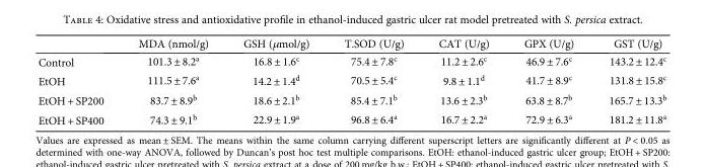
<table><thead><tr><td></td><td>MDA (nmol/g)</td><td>GSH (μmol/g)</td><td>T.SOD (U/g)</td><td>CAT (U/g)</td><td>GPX (U/g)</td><td>GST (U/g)</td></tr></thead><tbody><tr><td>Control</td><td>101.3 ± 8.2<sup>a</sup></td><td>16.8 ± 1.6<sup>c</sup></td><td>75.4 ± 7.8<sup>c</sup></td><td>11.2 ± 2.6<sup>c</sup></td><td>46.9 ± 7.6<sup>c</sup></td><td>143.2 ± 12.4<sup>c</sup></td></tr><tr><td>EtOH</td><td>111.5 ± 7.6<sup>a</sup></td><td>14.2 ± 1.4<sup>d</sup></td><td>70.5 ± 5.4<sup>c</sup></td><td>9.8 ± 1.1<sup>d</sup></td><td>41.7 ± 8.9<sup>c</sup></td><td>131.8 ± 15.8<sup>c</sup></td></tr><tr><td>EtOH + SP200</td><td>83.7 ± 8.9<sup>b</sup></td><td>18.6 ± 2.1<sup>b</sup></td><td>85.4 ± 7.1<sup>b</sup></td><td>13.6 ± 2.3<sup>b</sup></td><td>63.8 ± 8.7<sup>b</sup></td><td>165.7 ± 13.3<sup>b</sup></td></tr><tr><td>EtOH + SP400</td><td>74.3 ± 9.1<sup>b</sup></td><td>22.9 ± 1.9<sup>a</sup></td><td>96.8 ± 6.4<sup>a</sup></td><td>16.7 ± 2.2<sup>a</sup></td><td>72.9 ± 6.3<sup>a</sup></td><td>181.2 ± 11.8<sup>a</sup></td></tr></tbody></table>